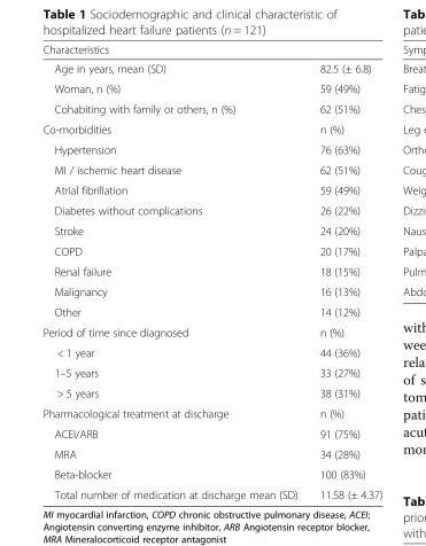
<table><thead><tr><td>Characteristics</td><td></td></tr></thead><tbody><tr><td>Age in years, mean (SD)</td><td>82.5 (± 6.8)</td></tr><tr><td>Woman, n (%)</td><td>59 (49%)</td></tr><tr><td>Cohabiting with family or others, n (%)</td><td>62 (51%)</td></tr><tr><td>Co-morbidities</td><td>n (%)</td></tr><tr><td>Hypertension</td><td>76 (63%)</td></tr><tr><td>MI / ischemic heart disease</td><td>62 (51%)</td></tr><tr><td>Atrial fibrillation</td><td>59 (49%)</td></tr><tr><td>Diabetes without complications</td><td>26 (22%)</td></tr><tr><td>Stroke</td><td>24 (20%)</td></tr><tr><td>COPD</td><td>20 (17%)</td></tr><tr><td>Renal failure</td><td>18 (15%)</td></tr><tr><td>Malignancy</td><td>16 (13%)</td></tr><tr><td>Other</td><td>14 (12%)</td></tr><tr><td>Period of time since diagnosed</td><td>n (%)</td></tr><tr><td>&lt; 1 year</td><td>44 (36%)</td></tr><tr><td>1–5 years</td><td>33 (27%)</td></tr><tr><td>&gt; 5 years</td><td>38 (31%)</td></tr><tr><td>Pharmacological treatment at discharge</td><td>n (%)</td></tr><tr><td>ACEI/ARB</td><td>91 (75%)</td></tr><tr><td>MRA</td><td>34 (28%)</td></tr><tr><td>Beta-blocker</td><td>100 (83%)</td></tr><tr><td>Total number of medication at discharge mean (SD)</td><td>11.58 (± 4.37)</td></tr></tbody></table>